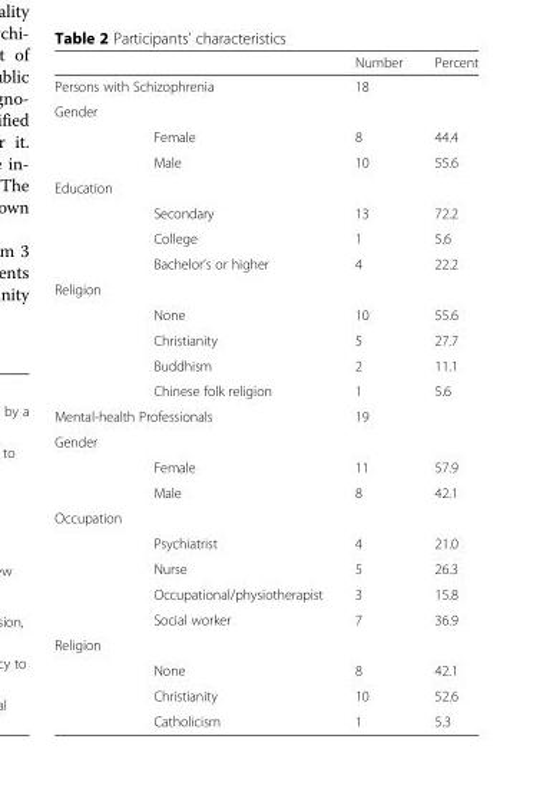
<table><thead><tr><td></td><td></td><td>Number</td><td>Percent</td></tr></thead><tbody><tr><td colspan="2">Persons with Schizophrenia</td><td>18</td><td></td></tr><tr><td colspan="4">Gender</td></tr><tr><td></td><td>Female</td><td>8</td><td>44.4</td></tr><tr><td></td><td>Male</td><td>10</td><td>55.6</td></tr><tr><td colspan="4">Education</td></tr><tr><td></td><td>Secondary</td><td>13</td><td>72.2</td></tr><tr><td></td><td>College</td><td>1</td><td>5.6</td></tr><tr><td></td><td>Bachelor’s or higher</td><td>4</td><td>22.2</td></tr><tr><td colspan="4">Religion</td></tr><tr><td></td><td>None</td><td>10</td><td>55.6</td></tr><tr><td></td><td>Christianity</td><td>5</td><td>27.7</td></tr><tr><td></td><td>Buddhism</td><td>2</td><td>11.1</td></tr><tr><td></td><td>Chinese folk religion</td><td>1</td><td>5.6</td></tr><tr><td colspan="2">Mental-health Professionals</td><td>19</td><td></td></tr><tr><td colspan="4">Gender</td></tr><tr><td></td><td>Female</td><td>11</td><td>57.9</td></tr><tr><td></td><td>Male</td><td>8</td><td>42.1</td></tr><tr><td colspan="4">Occupation</td></tr><tr><td></td><td>Psychiatrist</td><td>4</td><td>21.0</td></tr><tr><td></td><td>Nurse</td><td>5</td><td>26.3</td></tr><tr><td></td><td>Occupational/physiotherapist</td><td>3</td><td>15.8</td></tr><tr><td></td><td>Social worker</td><td>7</td><td>36.9</td></tr><tr><td colspan="4">Religion</td></tr><tr><td></td><td>None</td><td>8</td><td>42.1</td></tr><tr><td></td><td>Christianity</td><td>10</td><td>52.6</td></tr><tr><td></td><td>Catholicism</td><td>1</td><td>5.3</td></tr></tbody></table>